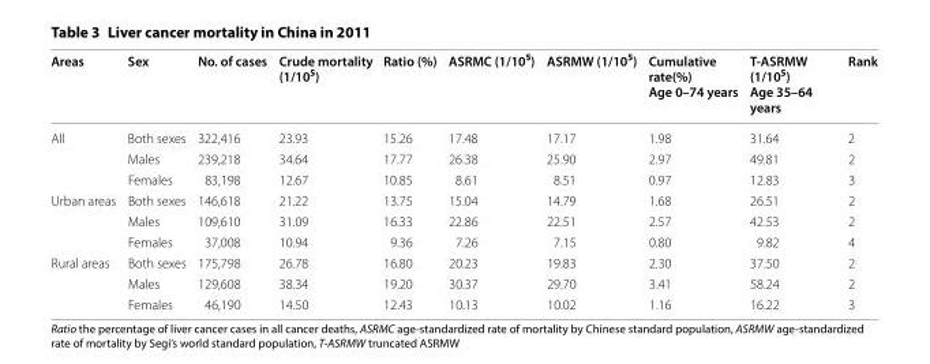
<table><thead><tr><td>Areas</td><td>Sex</td><td>No. of cases</td><td>Crude mortality (1/10<sup>5</sup>)</td><td>Ratio (%)</td><td>ASRMC (1/10<sup>5</sup>)</td><td>ASRMW (1/10<sup>5</sup>)</td><td>Cumulative rate(%) Age 0–74 years</td><td>T‑ASRMW (1/10<sup>5</sup>) Age 35–64 years</td><td>Rank</td></tr></thead><tbody><tr><td rowspan="3">All</td><td>Both sexes</td><td>322,416</td><td>23.93</td><td>15.26</td><td>17.48</td><td>17.17</td><td>1.98</td><td>31.64</td><td>2</td></tr><tr><td>Males</td><td>239,218</td><td>34.64</td><td>17.77</td><td>26.38</td><td>25.90</td><td>2.97</td><td>49.81</td><td>2</td></tr><tr><td>Females</td><td>83,198</td><td>12.67</td><td>10.85</td><td>8.61</td><td>8.51</td><td>0.97</td><td>12.83</td><td>3</td></tr><tr><td rowspan="3">Urban areas</td><td>Both sexes</td><td>146,618</td><td>21.22</td><td>13.75</td><td>15.04</td><td>14.79</td><td>1.68</td><td>26.51</td><td>2</td></tr><tr><td>Males</td><td>109,610</td><td>31.09</td><td>16.33</td><td>22.86</td><td>22.51</td><td>2.57</td><td>42.53</td><td>2</td></tr><tr><td>Females</td><td>37,008</td><td>10.94</td><td>9.36</td><td>7.26</td><td>7.15</td><td>0.80</td><td>9.82</td><td>4</td></tr><tr><td rowspan="3">Rural areas</td><td>Both sexes</td><td>175,798</td><td>26.78</td><td>16.80</td><td>20.23</td><td>19.83</td><td>2.30</td><td>37.50</td><td>2</td></tr><tr><td>Males</td><td>129,608</td><td>38.34</td><td>19.20</td><td>30.37</td><td>29.70</td><td>3.41</td><td>58.24</td><td>2</td></tr><tr><td>Females</td><td>46,190</td><td>14.50</td><td>12.43</td><td>10.13</td><td>10.02</td><td>1.16</td><td>16.22</td><td>3</td></tr></tbody></table>